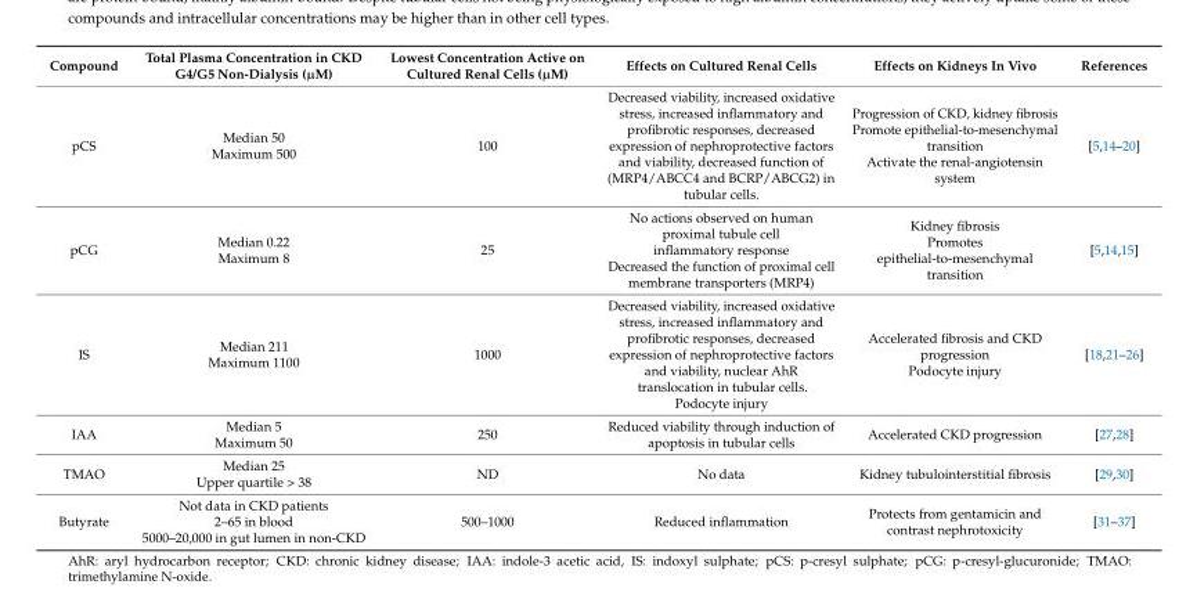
<table><thead><tr><td>Compound</td><td>Total Plasma Concentration in CKD G4/G5 Non-Dialysis (µM)</td><td>Lowest Concentration Active on Cultured Renal Cells (µM)</td><td>Effects on Cultured Renal Cells</td><td>Effects on Kidneys In Vivo</td><td>References</td></tr></thead><tbody><tr><td>pCS</td><td>Median 50 Maximum 500</td><td>100</td><td>Decreased viability, increased oxidative stress, increased inflammatory and profibrotic responses, decreased expression of nephroprotective factors and viability, decreased function of (MRP4/ABCC4 and BCRP/ABCG2) in tubular cells.</td><td>Progression of CKD, kidney fibrosis Promote epithelial-to-mesenchymal transition Activate the renal-angiotensin system</td><td>[5,14–20]</td></tr><tr><td>pCG</td><td>Median 0.22 Maximum 8</td><td>25</td><td>No actions observed on human proximal tubule cell inflammatory response Decreased the function of proximal cell membrane transporters (MRP4)</td><td>Kidney fibrosis Promotes epithelial-to-mesenchymal transition</td><td>[5,14,15]</td></tr><tr><td>IS</td><td>Median 211 Maximum 1100</td><td>1000</td><td>Decreased viability, increased oxidative stress, increased inflammatory and profibrotic responses, decreased expression of nephroprotective factors and viability, nuclear AhR translocation in tubular cells. Podocyte injury</td><td>Accelerated fibrosis and CKD progression Podocyte injury</td><td>[18,21–26]</td></tr><tr><td>IAA</td><td>Median 5 Maximum 50</td><td>250</td><td>Reduced viability through induction of apoptosis in tubular cells</td><td>Accelerated CKD progression</td><td>[27,28]</td></tr><tr><td>TMAO</td><td>Median 25 Upper quartile &gt; 38</td><td>ND</td><td>No data</td><td>Kidney tubulointerstitial fibrosis</td><td>[29,30]</td></tr><tr><td>Butyrate</td><td>Not data in CKD patients 2–65 in blood 5000–20,000 in gut lumen in non-CKD</td><td>500–1000</td><td>Reduced inflammation</td><td>Protects from gentamicin and contrast nephrotoxicity</td><td>[31–37]</td></tr></tbody></table>